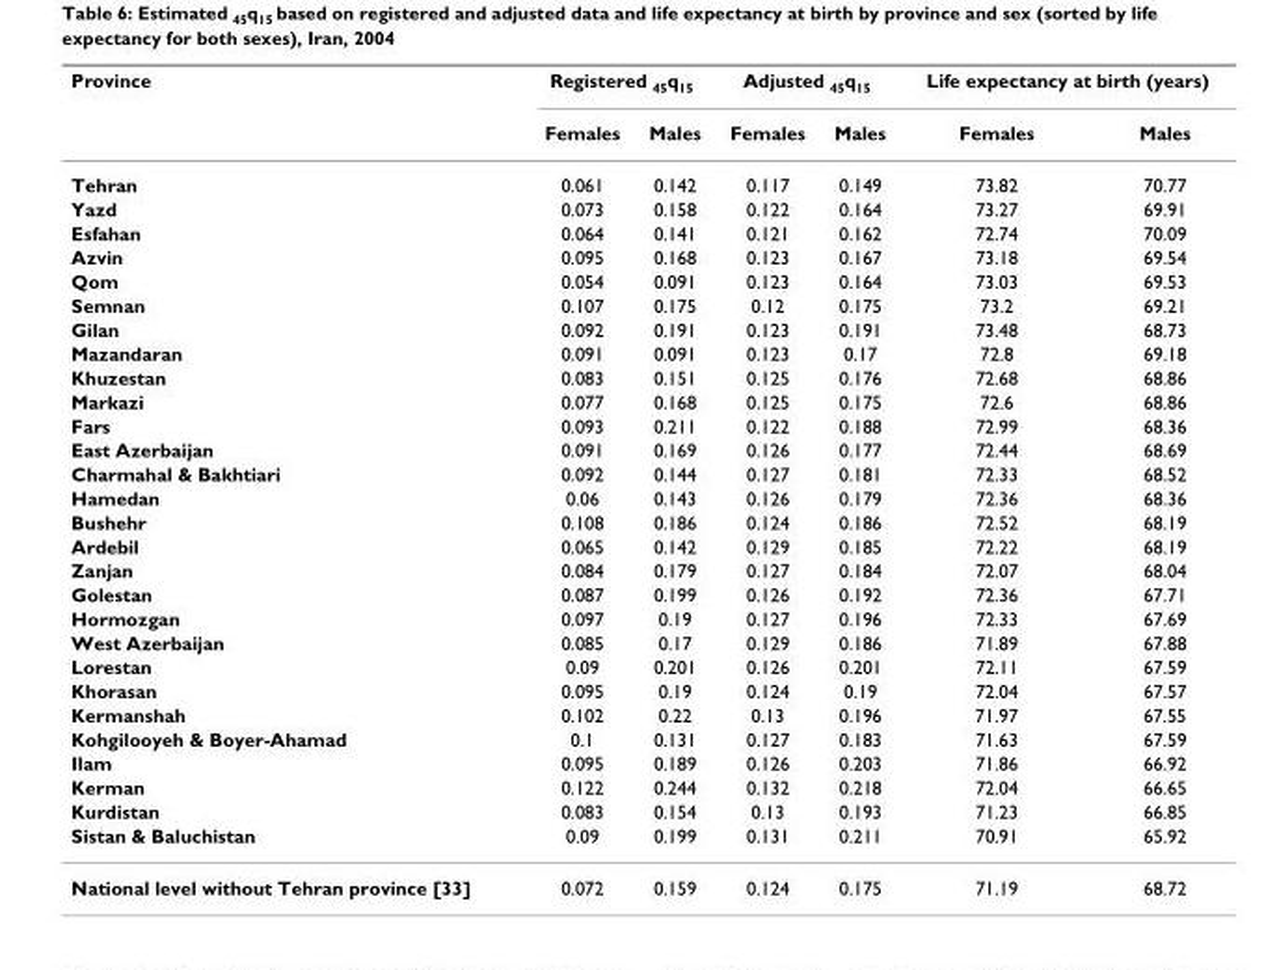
<table><thead><tr><td rowspan="2">Province</td><td colspan="2">Registered <sub>45</sub>q<sub>15</sub></td><td colspan="2">Adjusted <sub>45</sub>q<sub>15</sub></td><td colspan="2">Life expectancy at birth (years)</td></tr><tr><td>Females</td><td>Males</td><td>Females</td><td>Males</td><td>Females</td><td>Males</td></tr></thead><tbody><tr><td>Tehran</td><td>0.061</td><td>0.142</td><td>0.117</td><td>0.149</td><td>73.82</td><td>70.77</td></tr><tr><td>Yazd</td><td>0.073</td><td>0.158</td><td>0.122</td><td>0.164</td><td>73.27</td><td>69.91</td></tr><tr><td>Esfahan</td><td>0.064</td><td>0.141</td><td>0.121</td><td>0.162</td><td>72.74</td><td>70.09</td></tr><tr><td>Azvin</td><td>0.095</td><td>0.168</td><td>0.123</td><td>0.167</td><td>73.18</td><td>69.54</td></tr><tr><td>Qom</td><td>0.054</td><td>0.091</td><td>0.123</td><td>0.164</td><td>73.03</td><td>69.53</td></tr><tr><td>Semnan</td><td>0.107</td><td>0.175</td><td>0.12</td><td>0.175</td><td>73.2</td><td>69.21</td></tr><tr><td>Gilan</td><td>0.092</td><td>0.191</td><td>0.123</td><td>0.191</td><td>73.48</td><td>68.73</td></tr><tr><td>Mazandaran</td><td>0.091</td><td>0.091</td><td>0.123</td><td>0.17</td><td>72.8</td><td>69.18</td></tr><tr><td>Khuzestan</td><td>0.083</td><td>0.151</td><td>0.125</td><td>0.176</td><td>72.68</td><td>68.86</td></tr><tr><td>Markazi</td><td>0.077</td><td>0.168</td><td>0.125</td><td>0.175</td><td>72.6</td><td>68.86</td></tr><tr><td>Fars</td><td>0.093</td><td>0.211</td><td>0.122</td><td>0.188</td><td>72.99</td><td>68.36</td></tr><tr><td>East Azerbaijan</td><td>0.091</td><td>0.169</td><td>0.126</td><td>0.177</td><td>72.44</td><td>68.69</td></tr><tr><td>Charmahal &amp; Bakhtiari</td><td>0.092</td><td>0.144</td><td>0.127</td><td>0.181</td><td>72.33</td><td>68.52</td></tr><tr><td>Hamedan</td><td>0.06</td><td>0.143</td><td>0.126</td><td>0.179</td><td>72.36</td><td>68.36</td></tr><tr><td>Bushehr</td><td>0.108</td><td>0.186</td><td>0.124</td><td>0.186</td><td>72.52</td><td>68.19</td></tr><tr><td>Ardebil</td><td>0.065</td><td>0.142</td><td>0.129</td><td>0.185</td><td>72.22</td><td>68.19</td></tr><tr><td>Zanjan</td><td>0.084</td><td>0.179</td><td>0.127</td><td>0.184</td><td>72.07</td><td>68.04</td></tr><tr><td>Golestan</td><td>0.087</td><td>0.199</td><td>0.126</td><td>0.192</td><td>72.36</td><td>67.71</td></tr><tr><td>Hormozgan</td><td>0.097</td><td>0.19</td><td>0.127</td><td>0.196</td><td>72.33</td><td>67.69</td></tr><tr><td>West Azerbaijan</td><td>0.085</td><td>0.17</td><td>0.129</td><td>0.186</td><td>71.89</td><td>67.88</td></tr><tr><td>Lorestan</td><td>0.09</td><td>0.201</td><td>0.126</td><td>0.201</td><td>72.11</td><td>67.59</td></tr><tr><td>Khorasan</td><td>0.095</td><td>0.19</td><td>0.124</td><td>0.19</td><td>72.04</td><td>67.57</td></tr><tr><td>Kermanshah</td><td>0.102</td><td>0.22</td><td>0.13</td><td>0.196</td><td>71.97</td><td>67.55</td></tr><tr><td>Kohgilooyeh &amp; Boyer-Ahamad</td><td>0.1</td><td>0.131</td><td>0.127</td><td>0.183</td><td>71.63</td><td>67.59</td></tr><tr><td>Ilam</td><td>0.095</td><td>0.189</td><td>0.126</td><td>0.203</td><td>71.86</td><td>66.92</td></tr><tr><td>Kerman</td><td>0.122</td><td>0.244</td><td>0.132</td><td>0.218</td><td>72.04</td><td>66.65</td></tr><tr><td>Kurdistan</td><td>0.083</td><td>0.154</td><td>0.13</td><td>0.193</td><td>71.23</td><td>66.85</td></tr><tr><td>Sistan &amp; Baluchistan</td><td>0.09</td><td>0.199</td><td>0.131</td><td>0.211</td><td>70.91</td><td>65.92</td></tr><tr><td>National level without Tehran province [33]</td><td>0.072</td><td>0.159</td><td>0.124</td><td>0.175</td><td>71.19</td><td>68.72</td></tr></tbody></table>